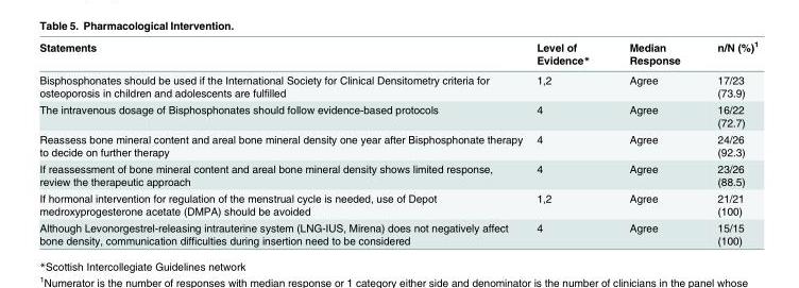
<table><thead><tr><td>Statements</td><td>Level of Evidence*</td><td>Median Response</td><td>n/N (%)<sup>1</sup></td></tr></thead><tbody><tr><td>Bisphosphonates should be used if the International Society for Clinical Densitometry criteria for osteoporosis in children and adolescents are fulfilled</td><td>1,2</td><td>Agree</td><td>17/23 (73.9)</td></tr><tr><td>The intravenous dosage of Bisphosphonates should follow evidence-based protocols</td><td>4</td><td>Agree</td><td>16/22 (72.7)</td></tr><tr><td>Reassess bone mineral content and areal bone mineral density one year after Bisphosphonate therapy to decide on further therapy</td><td>4</td><td>Agree</td><td>24/26 (92.3)</td></tr><tr><td>If reassessment of bone mineral content and areal bone mineral density shows limited response, review the therapeutic approach</td><td>4</td><td>Agree</td><td>23/26 (88.5)</td></tr><tr><td>If hormonal intervention for regulation of the menstrual cycle is needed, use of Depot medroxyprogesterone acetate (DMPA) should be avoided</td><td>1,2</td><td>Agree</td><td>21/21 (100)</td></tr><tr><td>Although Levonorgestrel-releasing intrauterine system (LNG-IUS, Mirena) does not negatively affect bone density, communication difficulties during insertion need to be considered</td><td>4</td><td>Agree</td><td>15/15 (100)</td></tr></tbody></table>